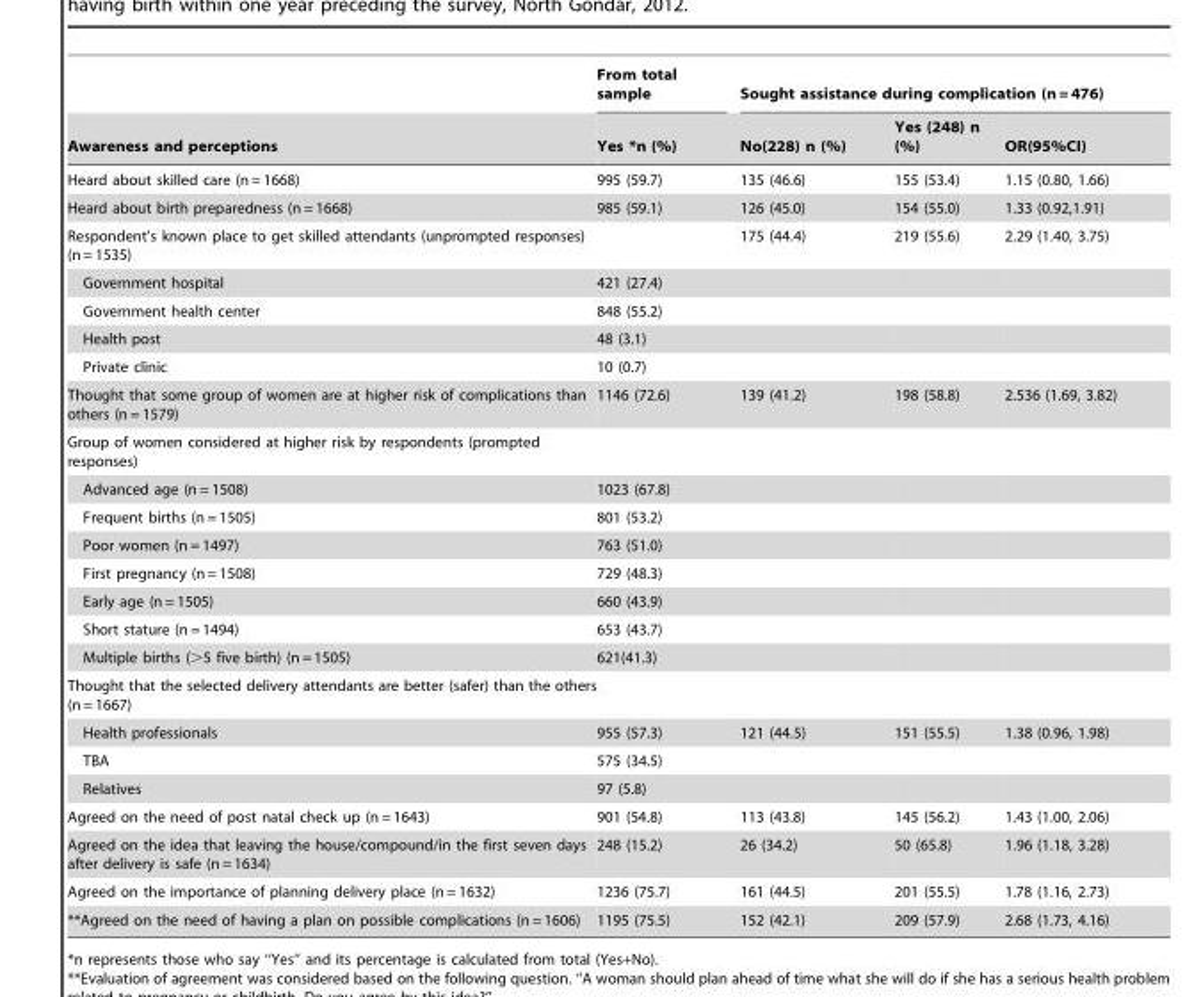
<table><thead><tr><td rowspan="2">Awareness and perceptions</td><td rowspan="2">From total sample Yes *n (%)</td><td colspan="3">Sought assistance during complication (n = 476)</td></tr><tr><td>No(228) n (%)</td><td>Yes (248) n (%)</td><td>OR(95%CI)</td></tr></thead><tbody><tr><td>Heard about skilled care (n = 1668)</td><td>995 (59.7)</td><td>135 (46.6)</td><td>155 (53.4)</td><td>1.15 (0.80, 1.66)</td></tr><tr><td>Heard about birth preparedness (n = 1668)</td><td>985 (59.1)</td><td>126 (45.0)</td><td>154 (55.0)</td><td>1.33 (0.92,1.91)</td></tr><tr><td>Respondent’s known place to get skilled attendants (unprompted responses) (n = 1535)</td><td></td><td>175 (44.4)</td><td>219 (55.6)</td><td>2.29 (1.40, 3.75)</td></tr><tr><td>Government hospital</td><td>421 (27.4)</td><td></td><td></td><td></td></tr><tr><td>Government health center</td><td>848 (55.2)</td><td></td><td></td><td></td></tr><tr><td>Health post</td><td>48 (3.1)</td><td></td><td></td><td></td></tr><tr><td>Private clinic</td><td>10 (0.7)</td><td></td><td></td><td></td></tr><tr><td>Thought that some group of women are at higher risk of complications than others (n = 1579)</td><td>1146 (72.6)</td><td>139 (41.2)</td><td>198 (58.8)</td><td>2.536 (1.69, 3.82)</td></tr><tr><td colspan="5">Group of women considered at higher risk by respondents (prompted responses)</td></tr><tr><td>Advanced age (n = 1508)</td><td>1023 (67.8)</td><td></td><td></td><td></td></tr><tr><td>Frequent births (n = 1505)</td><td>801 (53.2)</td><td></td><td></td><td></td></tr><tr><td>Poor women (n = 1497)</td><td>763 (51.0)</td><td></td><td></td><td></td></tr><tr><td>First pregnancy (n = 1508)</td><td>729 (48.3)</td><td></td><td></td><td></td></tr><tr><td>Early age (n = 1505)</td><td>660 (43.9)</td><td></td><td></td><td></td></tr><tr><td>Short stature (n = 1494)</td><td>653 (43.7)</td><td></td><td></td><td></td></tr><tr><td>Multiple births (&gt;5 five birth) (n = 1505)</td><td>621(41.3)</td><td></td><td></td><td></td></tr><tr><td colspan="5">Thought that the selected delivery attendants are better (safer) than the others (n = 1667)</td></tr><tr><td>Health professionals</td><td>955 (57.3)</td><td>121 (44.5)</td><td>151 (55.5)</td><td>1.38 (0.96, 1.98)</td></tr><tr><td>TBA</td><td>575 (34.5)</td><td></td><td></td><td></td></tr><tr><td>Relatives</td><td>97 (5.8)</td><td></td><td></td><td></td></tr><tr><td>Agreed on the need of post natal check up (n = 1643)</td><td>901 (54.8)</td><td>113 (43.8)</td><td>145 (56.2)</td><td>1.43 (1.00, 2.06)</td></tr><tr><td>Agreed on the idea that leaving the house/compound/in the first seven days after delivery is safe (n = 1634)</td><td>248 (15.2)</td><td>26 (34.2)</td><td>50 (65.8)</td><td>1.96 (1.18, 3.28)</td></tr><tr><td>Agreed on the importance of planning delivery place (n = 1632)</td><td>1236 (75.7)</td><td>161 (44.5)</td><td>201 (55.5)</td><td>1.78 (1.16, 2.73)</td></tr><tr><td>**Agreed on the need of having a plan on possible complications (n = 1606)</td><td>1195 (75.5)</td><td>152 (42.1)</td><td>209 (57.9)</td><td>2.68 (1.73, 4.16)</td></tr></tbody></table>